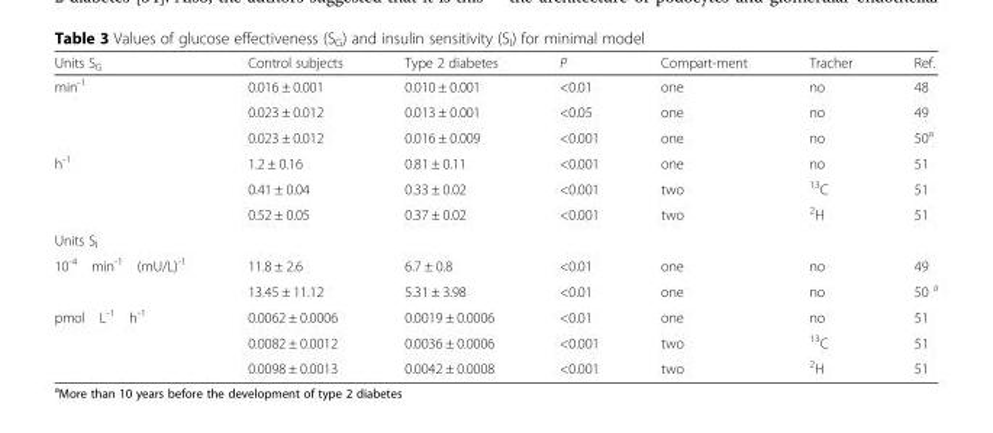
<table><thead><tr><td>Units S<sub>G</sub></td><td>Control subjects</td><td>Type 2 diabetes</td><td>P</td><td>Compart-ment</td><td>Tracher</td><td>Ref.</td></tr></thead><tbody><tr><td rowspan="3">min<sup>-1</sup></td><td>0.016 ± 0.001</td><td>0.010 ± 0.001</td><td>&lt;0.01</td><td>one</td><td>no</td><td>48</td></tr><tr><td>0.023 ± 0.012</td><td>0.013 ± 0.001</td><td>&lt;0.05</td><td>one</td><td>no</td><td>49</td></tr><tr><td>0.023 ± 0.012</td><td>0.016 ± 0.009</td><td>&lt;0.001</td><td>one</td><td>no</td><td>50<sup>a</sup></td></tr><tr><td rowspan="3">h<sup>-1</sup></td><td>1.2 ± 0.16</td><td>0.81 ± 0.11</td><td>&lt;0.001</td><td>one</td><td>no</td><td>51</td></tr><tr><td>0.41 ± 0.04</td><td>0.33 ± 0.02</td><td>&lt;0.001</td><td>two</td><td><sup>13</sup>C</td><td>51</td></tr><tr><td>0.52 ± 0.05</td><td>0.37 ± 0.02</td><td>&lt;0.001</td><td>two</td><td><sup>2</sup>H</td><td>51</td></tr><tr><td colspan="7">Units S<sub>I</sub></td></tr><tr><td rowspan="2">10-4 min-1 (mU/L)-1</td><td>11.8 ± 2.6</td><td>6.7 ± 0.8</td><td>&lt;0.01</td><td>one</td><td>no</td><td>49</td></tr><tr><td>13.45 ± 11.12</td><td>5.31 ± 3.98</td><td>&lt;0.01</td><td>one</td><td>no</td><td>50 <sup>a</sup></td></tr><tr><td rowspan="3">pmol L-1 h-1</td><td>0.0062 ± 0.0006</td><td>0.0019 ± 0.0006</td><td>&lt;0.01</td><td>one</td><td>no</td><td>51</td></tr><tr><td>0.0082 ± 0.0012</td><td>0.0036 ± 0.0006</td><td>&lt;0.001</td><td>two</td><td><sup>13</sup>C</td><td>51</td></tr><tr><td>0.0098 ± 0.0013</td><td>0.0042 ± 0.0008</td><td>&lt;0.001</td><td>two</td><td><sup>2</sup>H</td><td>51</td></tr></tbody></table>